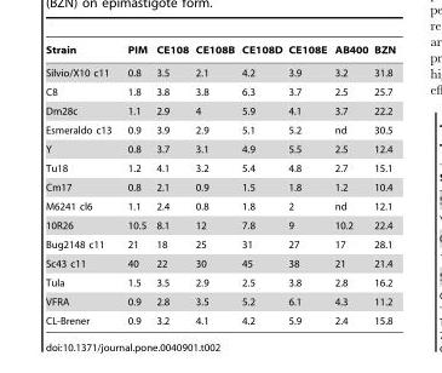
<table><thead><tr><td>Strain</td><td>PIM</td><td>CE108</td><td>CE108B</td><td>CE108D</td><td>CE108E</td><td>AB400</td><td>BZN</td></tr></thead><tbody><tr><td>Silvio/X10 c11</td><td>0.8</td><td>3.5</td><td>2.1</td><td>4.2</td><td>3.9</td><td>3.2</td><td>31.8</td></tr><tr><td>C8</td><td>1.8</td><td>3.8</td><td>3.8</td><td>6.3</td><td>3.7</td><td>2.5</td><td>25.7</td></tr><tr><td>Dm28c</td><td>1.1</td><td>2.9</td><td>4</td><td>5.9</td><td>4.1</td><td>3.7</td><td>22.2</td></tr><tr><td>Esmeraldo c13</td><td>0.9</td><td>3.9</td><td>2.9</td><td>5.1</td><td>5.2</td><td>nd</td><td>30.5</td></tr><tr><td>Y</td><td>0.8</td><td>3.7</td><td>3.1</td><td>4.9</td><td>5.5</td><td>2.5</td><td>12.4</td></tr><tr><td>Tu18</td><td>1.2</td><td>4.1</td><td>3.2</td><td>5.4</td><td>4.8</td><td>2.7</td><td>15.1</td></tr><tr><td>Cm17</td><td>0.8</td><td>2.1</td><td>0.9</td><td>1.5</td><td>1.8</td><td>1.2</td><td>10.4</td></tr><tr><td>M6241 cl6</td><td>1.1</td><td>2.4</td><td>0.8</td><td>1.8</td><td>2</td><td>nd</td><td>12.1</td></tr><tr><td>10R26</td><td>10.5</td><td>8.1</td><td>12</td><td>7.8</td><td>9</td><td>10.2</td><td>22.4</td></tr><tr><td>Bug2148 c11</td><td>21</td><td>18</td><td>25</td><td>31</td><td>27</td><td>17</td><td>28.1</td></tr><tr><td>Sc43 c11</td><td>40</td><td>22</td><td>30</td><td>45</td><td>38</td><td>21</td><td>21.4</td></tr><tr><td>Tula</td><td>1.5</td><td>3.5</td><td>2.9</td><td>2.5</td><td>3.8</td><td>2.8</td><td>16.2</td></tr><tr><td>VFRA</td><td>0.9</td><td>2.8</td><td>3.5</td><td>5.2</td><td>6.1</td><td>4.3</td><td>11.2</td></tr><tr><td>CL-Brener</td><td>0.9</td><td>3.2</td><td>4.1</td><td>4.2</td><td>5.9</td><td>2.4</td><td>15.8</td></tr></tbody></table>